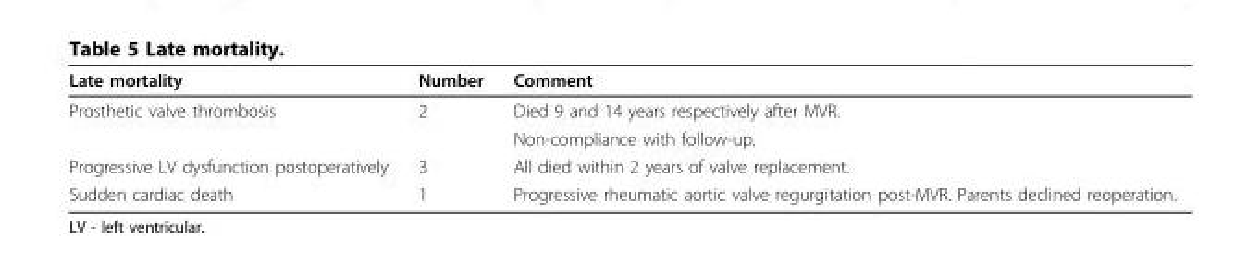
<table><thead><tr><td>Late mortality</td><td>Number</td><td>Comment</td></tr></thead><tbody><tr><td rowspan="2">Prosthetic valve thrombosis</td><td>2</td><td>Died 9 and 14 years respectively after MVR.</td></tr><tr><td></td><td>Non-compliance with follow-up.</td></tr><tr><td>Progressive LV dysfunction postoperatively</td><td>3</td><td>All died within 2 years of valve replacement.</td></tr><tr><td>Sudden cardiac death</td><td>1</td><td>Progressive rheumatic aortic valve regurgitation post-MVR. Parents declined reoperation.</td></tr></tbody></table>